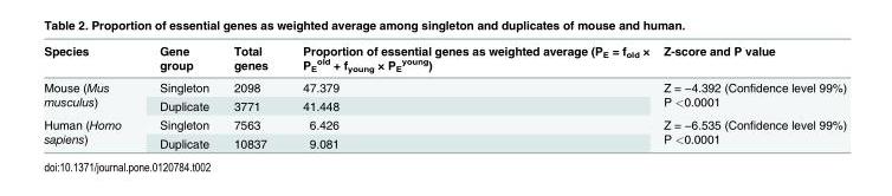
<table><thead><tr><td>Species</td><td>Gene group</td><td>Total genes</td><td>Proportion of essential genes as weighted average (P<sub>E</sub> = f<sub>old</sub> × P<sub>E</sub> <sup>old</sup> + f<sub>young</sub> × P<sub>E</sub> <sup>young</sup>)</td><td>Z-score and P value</td></tr></thead><tbody><tr><td rowspan="2">Mouse (Mus musculus)</td><td>Singleton</td><td>2098</td><td>47.379</td><td rowspan="2">Z = −4.392 (Confidence level 99%) P &lt;0.0001</td></tr><tr><td>Duplicate</td><td>3771</td><td>41.448</td></tr><tr><td rowspan="2">Human (Homo sapiens)</td><td>Singleton</td><td>7563</td><td>6.426</td><td rowspan="2">Z = −6.535 (Confidence level 99%) P &lt;0.0001</td></tr><tr><td>Duplicate</td><td>10837</td><td>9.081</td></tr></tbody></table>